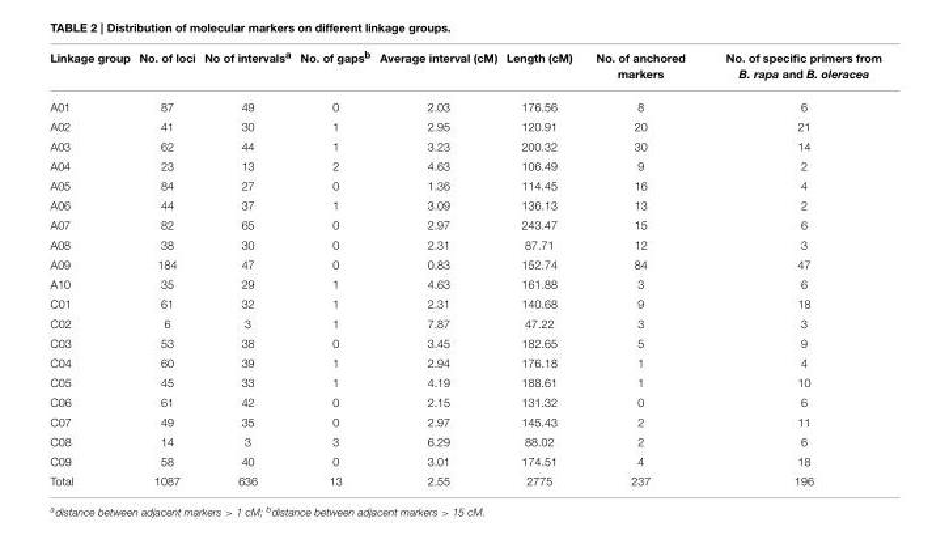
<table><thead><tr><td>Linkage group</td><td>No. of loci</td><td>No of intervals<sup>a</sup></td><td>No. of gaps<sup>b</sup></td><td>Average interval (cM)</td><td>Length (cM)</td><td>No. of anchored markers</td><td>No. of specific primers from B. rapa and B. oleracea</td></tr></thead><tbody><tr><td>A01</td><td>87</td><td>49</td><td>0</td><td>2.03</td><td>176.56</td><td>8</td><td>6</td></tr><tr><td>A02</td><td>41</td><td>30</td><td>1</td><td>2.95</td><td>120.91</td><td>20</td><td>21</td></tr><tr><td>A03</td><td>62</td><td>44</td><td>1</td><td>3.23</td><td>200.32</td><td>30</td><td>14</td></tr><tr><td>A04</td><td>23</td><td>13</td><td>2</td><td>4.63</td><td>106.49</td><td>9</td><td>2</td></tr><tr><td>A05</td><td>84</td><td>27</td><td>0</td><td>1.36</td><td>114.45</td><td>16</td><td>4</td></tr><tr><td>A06</td><td>44</td><td>37</td><td>1</td><td>3.09</td><td>136.13</td><td>13</td><td>2</td></tr><tr><td>A07</td><td>82</td><td>65</td><td>0</td><td>2.97</td><td>243.47</td><td>15</td><td>6</td></tr><tr><td>A08</td><td>38</td><td>30</td><td>0</td><td>2.31</td><td>87.71</td><td>12</td><td>3</td></tr><tr><td>A09</td><td>184</td><td>47</td><td>0</td><td>0.83</td><td>152.74</td><td>84</td><td>47</td></tr><tr><td>A10</td><td>35</td><td>29</td><td>1</td><td>4.63</td><td>161.88</td><td>3</td><td>6</td></tr><tr><td>C01</td><td>61</td><td>32</td><td>1</td><td>2.31</td><td>140.68</td><td>9</td><td>18</td></tr><tr><td>C02</td><td>6</td><td>3</td><td>1</td><td>7.87</td><td>47.22</td><td>3</td><td>3</td></tr><tr><td>C03</td><td>53</td><td>38</td><td>0</td><td>3.45</td><td>182.65</td><td>5</td><td>9</td></tr><tr><td>C04</td><td>60</td><td>39</td><td>1</td><td>2.94</td><td>176.18</td><td>1</td><td>4</td></tr><tr><td>C05</td><td>45</td><td>33</td><td>1</td><td>4.19</td><td>188.61</td><td>1</td><td>10</td></tr><tr><td>C06</td><td>61</td><td>42</td><td>0</td><td>2.15</td><td>131.32</td><td>0</td><td>6</td></tr><tr><td>C07</td><td>49</td><td>35</td><td>0</td><td>2.97</td><td>145.43</td><td>2</td><td>11</td></tr><tr><td>C08</td><td>14</td><td>3</td><td>3</td><td>6.29</td><td>88.02</td><td>2</td><td>6</td></tr><tr><td>C09</td><td>58</td><td>40</td><td>0</td><td>3.01</td><td>174.51</td><td>4</td><td>18</td></tr><tr><td>Total</td><td>1087</td><td>636</td><td>13</td><td>2.55</td><td>2775</td><td>237</td><td>196</td></tr></tbody></table>